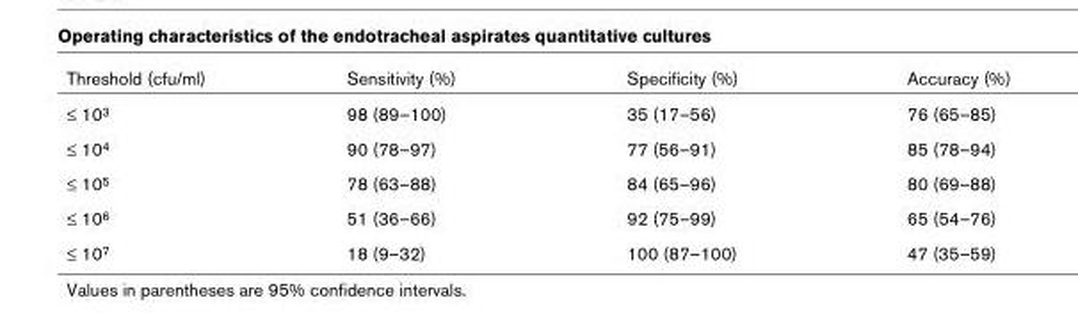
<table><thead><tr><td>Threshold (cfu/ml)</td><td>Sensitivity (%)</td><td>Specificity (%)</td><td>Accuracy (%)</td></tr></thead><tbody><tr><td>≤ 10<sup>3</sup></td><td>98 (89–100)</td><td>35 (17–56)</td><td>76 (65–85)</td></tr><tr><td>≤ 10<sup>4</sup></td><td>90 (78–97)</td><td>77 (56–91)</td><td>85 (78–94)</td></tr><tr><td>≤ 10<sup>5</sup></td><td>78 (63–88)</td><td>84 (65–96)</td><td>80 (69–88)</td></tr><tr><td>≤ 10<sup>6</sup></td><td>51 (36–66)</td><td>92 (75–99)</td><td>65 (54–76)</td></tr><tr><td>≤ 10<sup>7</sup></td><td>18 (9–32)</td><td>100 (87–100)</td><td>47 (35–59)</td></tr></tbody></table>